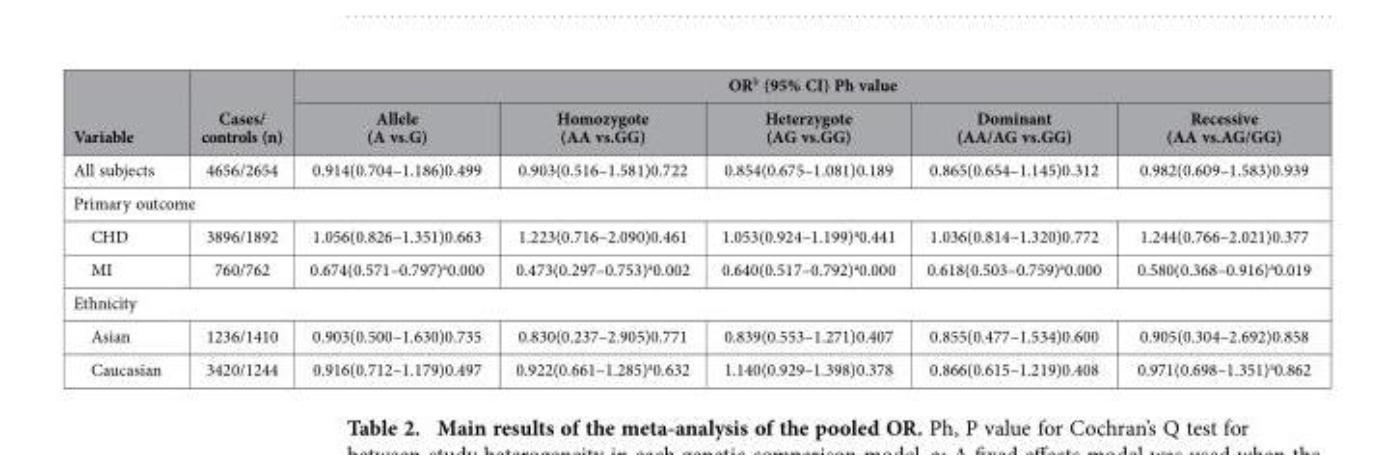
<table><thead><tr><td rowspan="2">Variable</td><td rowspan="2">Cases/ controls (n)</td><td colspan="5">OR<sup>b</sup> (95% CI) Ph value</td></tr><tr><td>Allele (A vs.G)</td><td>Homozygote (AA vs.GG)</td><td>Heterzygote (AG vs.GG)</td><td>Dominant (AA/AG vs.GG)</td><td>Recessive (AA vs.AG/GG)</td></tr></thead><tbody><tr><td>All subjects</td><td>4656/2654</td><td>0.914(0.704–1.186)0.499</td><td>0.903(0.516–1.581)0.722</td><td>0.854(0.675–1.081)0.189</td><td>0.865(0.654–1.145)0.312</td><td>0.982(0.609–1.583)0.939</td></tr><tr><td colspan="7">Primary outcome</td></tr><tr><td>CHD</td><td>3896/1892</td><td>1.056(0.826–1.351)0.663</td><td>1.223(0.716–2.090)0.461</td><td>1.053(0.924–1.199)<sup>a</sup>0.441</td><td>1.036(0.814–1.320)0.772</td><td>1.244(0.766–2.021)0.377</td></tr><tr><td>MI</td><td>760/762</td><td>0.674(0.571–0.797)<sup>a</sup>0.000</td><td>0.473(0.297–0.753)<sup>a</sup>0.002</td><td>0.640(0.517–0.792)<sup>a</sup>0.000</td><td>0.618(0.503–0.759)<sup>a</sup>0.000</td><td>0.580(0.368–0.916)<sup>a</sup>0.019</td></tr><tr><td colspan="7">Ethnicity</td></tr><tr><td>Asian</td><td>1236/1410</td><td>0.903(0.500–1.630)0.735</td><td>0.830(0.237–2.905)0.771</td><td>0.839(0.553–1.271)0.407</td><td>0.855(0.477–1.534)0.600</td><td>0.905(0.304–2.692)0.858</td></tr><tr><td>Caucasian</td><td>3420/1244</td><td>0.916(0.712–1.179)0.497</td><td>0.922(0.661–1.285)<sup>a</sup>0.632</td><td>1.140(0.929–1.398)0.378</td><td>0.866(0.615–1.219)0.408</td><td>0.971(0.698–1.351)<sup>a</sup>0.862</td></tr></tbody></table>